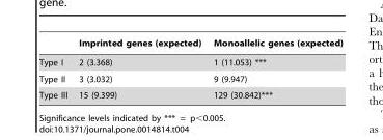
<table><thead><tr><td></td><td>Imprinted genes (expected)</td><td>Monoallelic genes (expected)</td></tr></thead><tbody><tr><td>Type I</td><td>2 (3.368)</td><td>1 (11.053) ***</td></tr><tr><td>Type II</td><td>3 (3.032)</td><td>9 (9.947)</td></tr><tr><td>Type III</td><td>15 (9.399)</td><td>129 (30.842)***</td></tr></tbody></table>